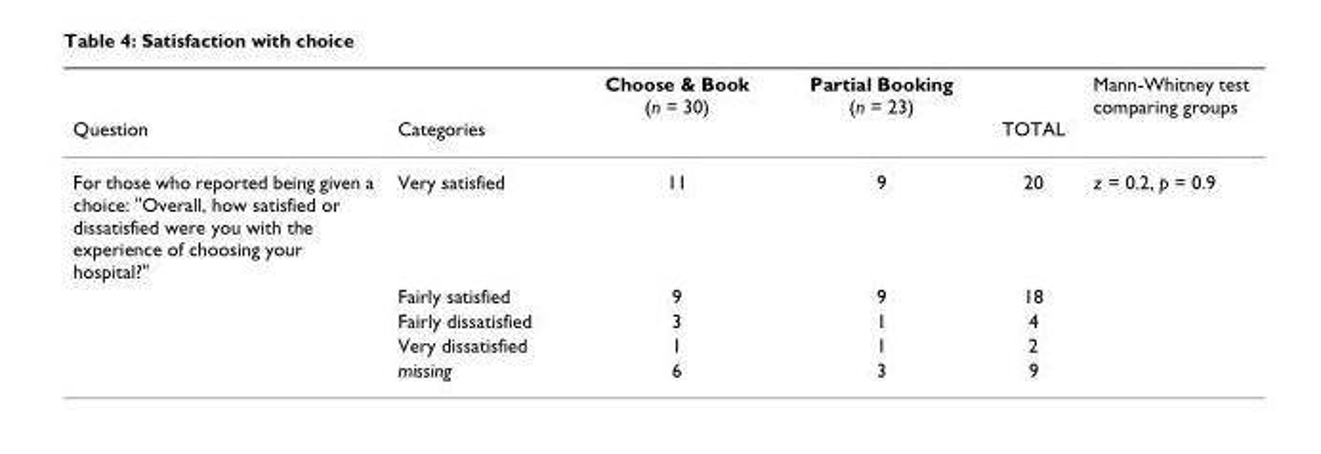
<table><thead><tr><td>Question</td><td>Categories</td><td>Choose &amp; Book (n = 30)</td><td>Partial Booking (n = 23)</td><td>TOTAL</td><td>Mann-Whitney test comparing groups</td></tr></thead><tbody><tr><td rowspan="5">For those who reported being given a choice: &quot;Overall, how satisfied or dissatisfied were you with the experience of choosing your hospital?&quot;</td><td>Very satisfied</td><td>11</td><td>9</td><td>20</td><td>z = 0.2, p = 0.9</td></tr><tr><td>Fairly satisfied</td><td>9</td><td>9</td><td>18</td><td></td></tr><tr><td>Fairly dissatisfied</td><td>3</td><td>1</td><td>4</td><td></td></tr><tr><td>Very dissatisfied</td><td>1</td><td>1</td><td>2</td><td></td></tr><tr><td>missing</td><td>6</td><td>3</td><td>9</td><td></td></tr></tbody></table>